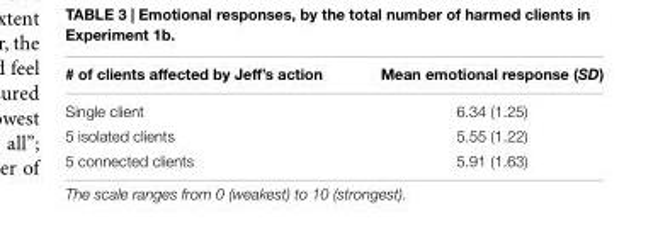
<table><thead><tr><td># of clients affected by Jeff’s action</td><td>Mean emotional response (SD)</td></tr></thead><tbody><tr><td>Single client</td><td>6.34 (1.25)</td></tr><tr><td>5 isolated clients</td><td>5.55 (1.22)</td></tr><tr><td>5 connected clients</td><td>5.91 (1.63)</td></tr></tbody></table>